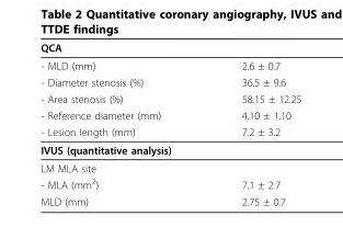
<table><thead><tr><td>QCA</td><td></td></tr></thead><tbody><tr><td>- MLD (mm)</td><td>2.6 ± 0.7</td></tr><tr><td>- Diameter stenosis (%)</td><td>36.5 ± 9.6</td></tr><tr><td>- Area stenosis (%)</td><td>58.15 ± 12.25</td></tr><tr><td>- Reference diameter (mm)</td><td>4.10 ± 1.10</td></tr><tr><td>- Lesion length (mm)</td><td>7.2 ± 3.2</td></tr><tr><td colspan="2">IVUS (quantitative analysis)</td></tr><tr><td colspan="2">LM MLA site</td></tr><tr><td>- MLA (mm<sup>2</sup>)</td><td>7.1 ± 2.7</td></tr><tr><td>MLD (mm)</td><td>2.75 ± 0.7</td></tr></tbody></table>